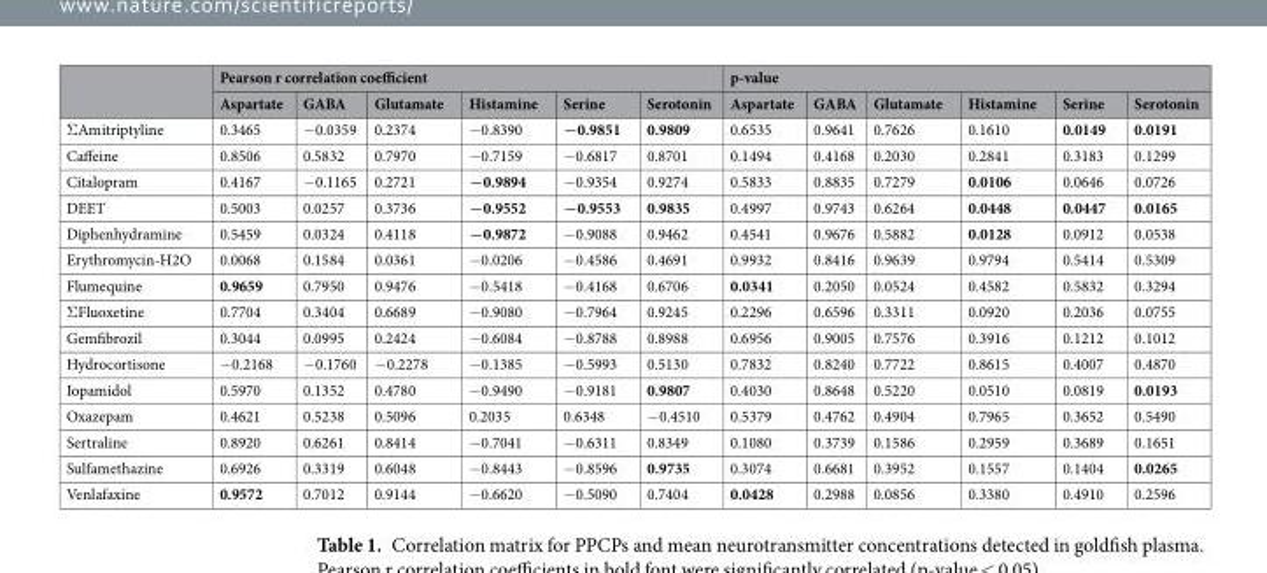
<table><thead><tr><td rowspan="2"></td><td colspan="6">Pearson r correlation coefficient</td><td colspan="6">p-value</td></tr><tr><td>Aspartate</td><td>GABA</td><td>Glutamate</td><td>Histamine</td><td>Serine</td><td>Serotonin</td><td>Aspartate</td><td>GABA</td><td>Glutamate</td><td>Histamine</td><td>Serine</td><td>Serotonin</td></tr></thead><tbody><tr><td>ΣAmitriptyline</td><td>0.3465</td><td>−0.0359</td><td>0.2374</td><td>−0.8390</td><td>−0.9851</td><td>0.9809</td><td>0.6535</td><td>0.9641</td><td>0.7626</td><td>0.1610</td><td>0.0149</td><td>0.0191</td></tr><tr><td>Caffeine</td><td>0.8506</td><td>0.5832</td><td>0.7970</td><td>−0.7159</td><td>−0.6817</td><td>0.8701</td><td>0.1494</td><td>0.4168</td><td>0.2030</td><td>0.2841</td><td>0.3183</td><td>0.1299</td></tr><tr><td>Citalopram</td><td>0.4167</td><td>−0.1165</td><td>0.2721</td><td>−0.9894</td><td>−0.9354</td><td>0.9274</td><td>0.5833</td><td>0.8835</td><td>0.7279</td><td>0.0106</td><td>0.0646</td><td>0.0726</td></tr><tr><td>DEET</td><td>0.5003</td><td>0.0257</td><td>0.3736</td><td>−0.9552</td><td>−0.9553</td><td>0.9835</td><td>0.4997</td><td>0.9743</td><td>0.6264</td><td>0.0448</td><td>0.0447</td><td>0.0165</td></tr><tr><td>Diphenhydramine</td><td>0.5459</td><td>0.0324</td><td>0.4118</td><td>−0.9872</td><td>−0.9088</td><td>0.9462</td><td>0.4541</td><td>0.9676</td><td>0.5882</td><td>0.0128</td><td>0.0912</td><td>0.0538</td></tr><tr><td>Erythromycin-H2O</td><td>0.0068</td><td>0.1584</td><td>0.0361</td><td>−0.0206</td><td>−0.4586</td><td>0.4691</td><td>0.9932</td><td>0.8416</td><td>0.9639</td><td>0.9794</td><td>0.5414</td><td>0.5309</td></tr><tr><td>Flumequine</td><td>0.9659</td><td>0.7950</td><td>0.9476</td><td>−0.5418</td><td>−0.4168</td><td>0.6706</td><td>0.0341</td><td>0.2050</td><td>0.0524</td><td>0.4582</td><td>0.5832</td><td>0.3294</td></tr><tr><td>ΣFluoxetine</td><td>0.7704</td><td>0.3404</td><td>0.6689</td><td>−0.9080</td><td>−0.7964</td><td>0.9245</td><td>0.2296</td><td>0.6596</td><td>0.3311</td><td>0.0920</td><td>0.2036</td><td>0.0755</td></tr><tr><td>Gemfibrozil</td><td>0.3044</td><td>0.0995</td><td>0.2424</td><td>−0.6084</td><td>−0.8788</td><td>0.8988</td><td>0.6956</td><td>0.9005</td><td>0.7576</td><td>0.3916</td><td>0.1212</td><td>0.1012</td></tr><tr><td>Hydrocortisone</td><td>−0.2168</td><td>−0.1760</td><td>−0.2278</td><td>−0.1385</td><td>−0.5993</td><td>0.5130</td><td>0.7832</td><td>0.8240</td><td>0.7722</td><td>0.8615</td><td>0.4007</td><td>0.4870</td></tr><tr><td>Iopamidol</td><td>0.5970</td><td>0.1352</td><td>0.4780</td><td>−0.9490</td><td>−0.9181</td><td>0.9807</td><td>0.4030</td><td>0.8648</td><td>0.5220</td><td>0.0510</td><td>0.0819</td><td>0.0193</td></tr><tr><td>Oxazepam</td><td>0.4621</td><td>0.5238</td><td>0.5096</td><td>0.2035</td><td>0.6348</td><td>−0.4510</td><td>0.5379</td><td>0.4762</td><td>0.4904</td><td>0.7965</td><td>0.3652</td><td>0.5490</td></tr><tr><td>Sertraline</td><td>0.8920</td><td>0.6261</td><td>0.8414</td><td>−0.7041</td><td>−0.6311</td><td>0.8349</td><td>0.1080</td><td>0.3739</td><td>0.1586</td><td>0.2959</td><td>0.3689</td><td>0.1651</td></tr><tr><td>Sulfamethazine</td><td>0.6926</td><td>0.3319</td><td>0.6048</td><td>−0.8443</td><td>−0.8596</td><td>0.9735</td><td>0.3074</td><td>0.6681</td><td>0.3952</td><td>0.1557</td><td>0.1404</td><td>0.0265</td></tr><tr><td>Venlafaxine</td><td>0.9572</td><td>0.7012</td><td>0.9144</td><td>−0.6620</td><td>−0.5090</td><td>0.7404</td><td>0.0428</td><td>0.2988</td><td>0.0856</td><td>0.3380</td><td>0.4910</td><td>0.2596</td></tr></tbody></table>